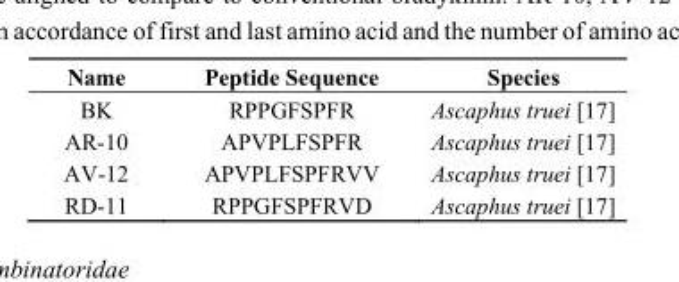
<table><thead><tr><td>Name</td><td>Peptide Sequence</td><td>Species</td></tr></thead><tbody><tr><td>BK</td><td>RPPGFSPFR</td><td>Ascaphus truei [17]</td></tr><tr><td>AR-10</td><td>APVPLFSPFR</td><td>Ascaphus truei [17]</td></tr><tr><td>AV-12</td><td>APVPLFSPFRVV</td><td>Ascaphus truei [17]</td></tr><tr><td>RD-11</td><td>RPPGFSPFRVD</td><td>Ascaphus truei [17]</td></tr></tbody></table>